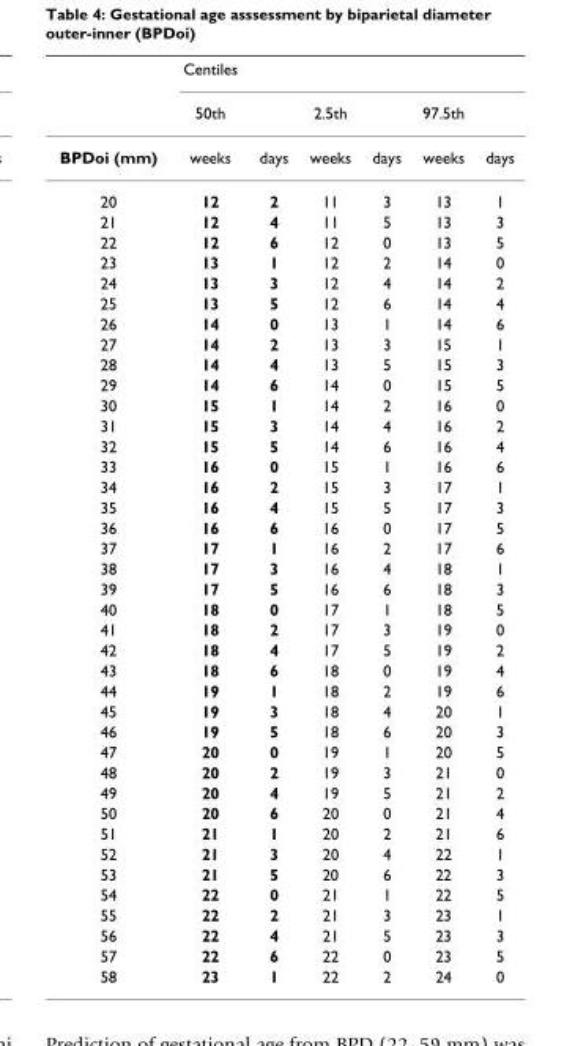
<table><thead><tr><td rowspan="2"></td><td rowspan="2">Centiles 50th</td><td rowspan="2"></td><td rowspan="2">2.5th</td><td rowspan="2"></td><td rowspan="2">97.5th</td><td rowspan="2"></td></tr><tr></tr></thead><tbody><tr><td>BPDoi (mm)</td><td>weeks</td><td>days</td><td>weeks</td><td>days</td><td>weeks</td><td>days</td></tr><tr><td>20</td><td>12</td><td>2</td><td>11</td><td>3</td><td>13</td><td>1</td></tr><tr><td>21</td><td>12</td><td>4</td><td>11</td><td>5</td><td>13</td><td>3</td></tr><tr><td>22</td><td>12</td><td>6</td><td>12</td><td>0</td><td>13</td><td>5</td></tr><tr><td>23</td><td>13</td><td>1</td><td>12</td><td>2</td><td>14</td><td>0</td></tr><tr><td>24</td><td>13</td><td>3</td><td>12</td><td>4</td><td>14</td><td>2</td></tr><tr><td>25</td><td>13</td><td>5</td><td>12</td><td>6</td><td>14</td><td>4</td></tr><tr><td>26</td><td>14</td><td>0</td><td>13</td><td>1</td><td>14</td><td>6</td></tr><tr><td>27</td><td>14</td><td>2</td><td>13</td><td>3</td><td>15</td><td>1</td></tr><tr><td>28</td><td>14</td><td>4</td><td>13</td><td>5</td><td>15</td><td>3</td></tr><tr><td>29</td><td>14</td><td>6</td><td>14</td><td>0</td><td>15</td><td>5</td></tr><tr><td>30</td><td>15</td><td>1</td><td>14</td><td>2</td><td>16</td><td>0</td></tr><tr><td>31</td><td>15</td><td>3</td><td>14</td><td>4</td><td>16</td><td>2</td></tr><tr><td>32</td><td>15</td><td>5</td><td>14</td><td>6</td><td>16</td><td>4</td></tr><tr><td>33</td><td>16</td><td>0</td><td>15</td><td>1</td><td>16</td><td>6</td></tr><tr><td>34</td><td>16</td><td>2</td><td>15</td><td>3</td><td>17</td><td>1</td></tr><tr><td>35</td><td>16</td><td>4</td><td>15</td><td>5</td><td>17</td><td>3</td></tr><tr><td>36</td><td>16</td><td>6</td><td>16</td><td>0</td><td>17</td><td>5</td></tr><tr><td>37</td><td>17</td><td>1</td><td>16</td><td>2</td><td>17</td><td>6</td></tr><tr><td>38</td><td>17</td><td>3</td><td>16</td><td>4</td><td>18</td><td>1</td></tr><tr><td>39</td><td>17</td><td>5</td><td>16</td><td>6</td><td>18</td><td>3</td></tr><tr><td>40</td><td>18</td><td>0</td><td>17</td><td>1</td><td>18</td><td>5</td></tr><tr><td>41</td><td>18</td><td>2</td><td>17</td><td>3</td><td>19</td><td>0</td></tr><tr><td>42</td><td>18</td><td>4</td><td>17</td><td>5</td><td>19</td><td>2</td></tr><tr><td>43</td><td>18</td><td>6</td><td>18</td><td>0</td><td>19</td><td>4</td></tr><tr><td>44</td><td>19</td><td>1</td><td>18</td><td>2</td><td>19</td><td>6</td></tr><tr><td>45</td><td>19</td><td>3</td><td>18</td><td>4</td><td>20</td><td>1</td></tr><tr><td>46</td><td>19</td><td>5</td><td>18</td><td>6</td><td>20</td><td>3</td></tr><tr><td>47</td><td>20</td><td>0</td><td>19</td><td>1</td><td>20</td><td>5</td></tr><tr><td>48</td><td>20</td><td>2</td><td>19</td><td>3</td><td>21</td><td>0</td></tr><tr><td>49</td><td>20</td><td>4</td><td>19</td><td>5</td><td>21</td><td>2</td></tr><tr><td>50</td><td>20</td><td>6</td><td>20</td><td>0</td><td>21</td><td>4</td></tr><tr><td>51</td><td>21</td><td>1</td><td>20</td><td>2</td><td>21</td><td>6</td></tr><tr><td>52</td><td>21</td><td>3</td><td>20</td><td>4</td><td>22</td><td>1</td></tr><tr><td>53</td><td>21</td><td>5</td><td>20</td><td>6</td><td>22</td><td>3</td></tr><tr><td>54</td><td>22</td><td>0</td><td>21</td><td>1</td><td>22</td><td>5</td></tr><tr><td>55</td><td>22</td><td>2</td><td>21</td><td>3</td><td>23</td><td>1</td></tr><tr><td>56</td><td>22</td><td>4</td><td>21</td><td>5</td><td>23</td><td>3</td></tr><tr><td>57</td><td>22</td><td>6</td><td>22</td><td>0</td><td>23</td><td>5</td></tr><tr><td>58</td><td>23</td><td>1</td><td>22</td><td>2</td><td>24</td><td>0</td></tr></tbody></table>